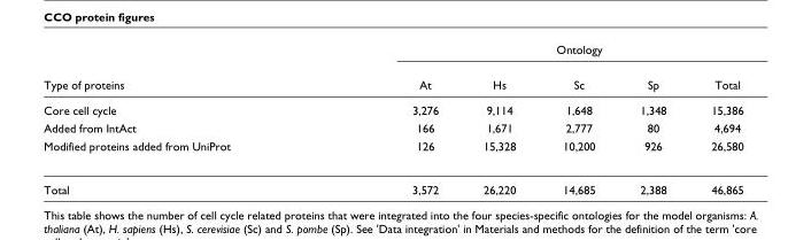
<table><thead><tr><td rowspan="2">Type of proteins</td><td colspan="5">Ontology</td></tr><tr><td>At</td><td>Hs</td><td>Sc</td><td>Sp</td><td>Total</td></tr></thead><tbody><tr><td>Core cell cycle</td><td>3,276</td><td>9,114</td><td>1,648</td><td>1,348</td><td>15,386</td></tr><tr><td>Added from IntAct</td><td>166</td><td>1,671</td><td>2,777</td><td>80</td><td>4,694</td></tr><tr><td>Modified proteins added from UniProt</td><td>126</td><td>15,328</td><td>10,200</td><td>926</td><td>26,580</td></tr><tr><td>Total</td><td>3,572</td><td>26,220</td><td>14,685</td><td>2,388</td><td>46,865</td></tr></tbody></table>